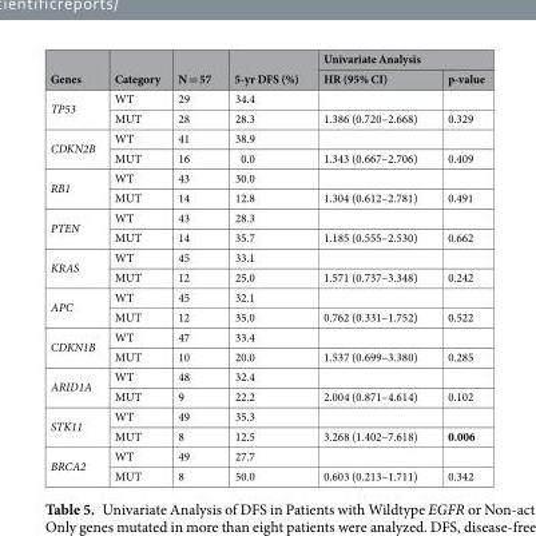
<table><thead><tr><td rowspan="2">Genes</td><td rowspan="2">Category</td><td rowspan="2">N = 57</td><td rowspan="2">5-yr DFS (%)</td><td colspan="2">Univariate Analysis</td></tr><tr><td>HR (95% CI)</td><td>p-value</td></tr></thead><tbody><tr><td rowspan="2">TP53</td><td>WT</td><td>29</td><td>34.4</td><td></td><td></td></tr><tr><td>MUT</td><td>28</td><td>28.3</td><td>1.386 (0.720–2.668)</td><td>0.329</td></tr><tr><td rowspan="2">CDKN2B</td><td>WT</td><td>41</td><td>38.9</td><td></td><td></td></tr><tr><td>MUT</td><td>16</td><td>0.0</td><td>1.343 (0.667–2.706)</td><td>0.409</td></tr><tr><td rowspan="2">RB1</td><td>WT</td><td>43</td><td>30.0</td><td></td><td></td></tr><tr><td>MUT</td><td>14</td><td>12.8</td><td>1.304 (0.612–2.781)</td><td>0.491</td></tr><tr><td rowspan="2">PTEN</td><td>WT</td><td>43</td><td>28.3</td><td></td><td></td></tr><tr><td>MUT</td><td>14</td><td>35.7</td><td>1.185 (0.555–2.530)</td><td>0.662</td></tr><tr><td rowspan="2">KRAS</td><td>WT</td><td>45</td><td>33.1</td><td></td><td></td></tr><tr><td>MUT</td><td>12</td><td>25.0</td><td>1.571 (0.737–3.348)</td><td>0.242</td></tr><tr><td rowspan="2">APC</td><td>WT</td><td>45</td><td>32.1</td><td></td><td></td></tr><tr><td>MUT</td><td>12</td><td>35.0</td><td>0.762 (0.331–1.752)</td><td>0.522</td></tr><tr><td rowspan="2">CDKN1B</td><td>WT</td><td>47</td><td>33.4</td><td></td><td></td></tr><tr><td>MUT</td><td>10</td><td>20.0</td><td>1.537 (0.699–3.380)</td><td>0.285</td></tr><tr><td rowspan="2">ARID1A</td><td>WT</td><td>48</td><td>32.4</td><td></td><td></td></tr><tr><td>MUT</td><td>9</td><td>22.2</td><td>2.004 (0.871–4.614)</td><td>0.102</td></tr><tr><td rowspan="2">STK11</td><td>WT</td><td>49</td><td>35.3</td><td></td><td></td></tr><tr><td>MUT</td><td>8</td><td>12.5</td><td>3.268 (1.402–7.618)</td><td>0.006</td></tr><tr><td rowspan="2">BRCA2</td><td>WT</td><td>49</td><td>27.7</td><td></td><td></td></tr><tr><td>MUT</td><td>8</td><td>50.0</td><td>0.603 (0.213–1.711)</td><td>0.342</td></tr></tbody></table>